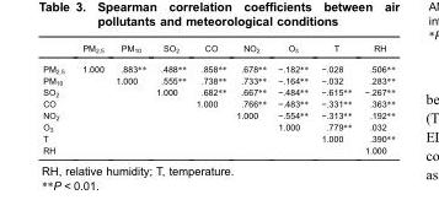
<table><thead><tr><td></td><td>PM<sub>2.5</sub></td><td>PM<sub>10</sub></td><td>SO<sub>2</sub></td><td>CO</td><td>NO<sub>2</sub></td><td>O<sub>3</sub></td><td>T</td><td>RH</td></tr></thead><tbody><tr><td>PM<sub>2.5</sub></td><td>1.000</td><td>.883**</td><td>.488**</td><td>.858**</td><td>.678**</td><td>−.182**</td><td>−.028</td><td>.506**</td></tr><tr><td>PM<sub>10</sub></td><td></td><td>1.000</td><td>.555**</td><td>.738**</td><td>.733**</td><td>−.164**</td><td>−.032</td><td>.283**</td></tr><tr><td>SO<sub>2</sub></td><td></td><td></td><td>1.000</td><td>.682**</td><td>.667**</td><td>−.484**</td><td>−.615**</td><td>−.267**</td></tr><tr><td>CO</td><td></td><td></td><td></td><td>1.000</td><td>.766**</td><td>−.483**</td><td>−.331**</td><td>.363**</td></tr><tr><td>NO<sub>2</sub></td><td></td><td></td><td></td><td></td><td>1.000</td><td>−.554**</td><td>−.313**</td><td>.192**</td></tr><tr><td>O<sub>3</sub></td><td></td><td></td><td></td><td></td><td></td><td>1.000</td><td>.779**</td><td>.032</td></tr><tr><td>T</td><td></td><td></td><td></td><td></td><td></td><td></td><td>1.000</td><td>.390**</td></tr><tr><td>RH</td><td></td><td></td><td></td><td></td><td></td><td></td><td></td><td>1.000</td></tr></tbody></table>